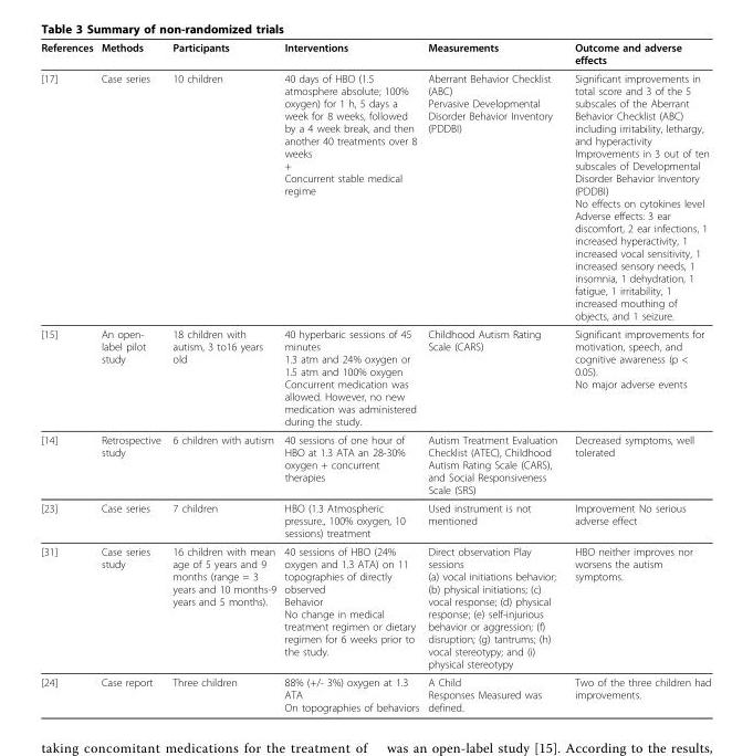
<table><thead><tr><td>References</td><td>Methods</td><td>Participants</td><td>Interventions</td><td>Measurements</td><td>Outcome and adverse effects</td></tr></thead><tbody><tr><td>[17]</td><td>Case series</td><td>10 children</td><td>40 days of HBO (1.5 atmosphere absolute; 100% oxygen) for 1 h, 5 days a week for 8 weeks, followed by a 4 week break, and then another 40 treatments over 8 weeks + Concurrent stable medical regime</td><td>Aberrant Behavior Checklist (ABC) Pervasive Developmental Disorder Behavior Inventory (PDDBI)</td><td>Significant improvements in total score and 3 of the 5 subscales of the Aberrant Behavior Checklist (ABC) including irritability, lethargy, and hyperactivity Improvements in 3 out of ten subscales of Developmental Disorder Behavior Inventory (PDDBI) No effects on cytokines level Adverse effects: 3 ear discomfort, 2 ear infections, 1 increased hyperactivity, 1 increased vocal sensitivity, 1 increased sensory needs, 1 insomnia, 1 dehydration, 1 fatigue, 1 irritability, 1 increased mouthing of objects, and 1 seizure.</td></tr><tr><td>[15]</td><td>An open- label pilot study</td><td>18 children with autism, 3 to16 years old</td><td>40 hyperbaric sessions of 45 minutes 1.3 atm and 24% oxygen or 1.5 atm and 100% oxygen Concurrent medication was allowed. However, no new medication was administered during the study.</td><td>Childhood Autism Rating Scale (CARS)</td><td>Significant improvements for motivation, speech, and cognitive awareness (p &lt; 0.05). No major adverse events</td></tr><tr><td>[14]</td><td>Retrospective study</td><td>6 children with autism</td><td>40 sessions of one hour of HBO at 1.3 ATA an 28-30% oxygen + concurrent therapies</td><td>Autism Treatment Evaluation Checklist (ATEC), Childhood Autism Rating Scale (CARS), and Social Responsiveness Scale (SRS)</td><td>Decreased symptoms, well tolerated</td></tr><tr><td>[23]</td><td>Case series</td><td>7 children</td><td>HBO (1.3 Atmospheric pressure., 100% oxygen, 10 sessions) treatment</td><td>Used instrument is not mentioned</td><td>Improvement No serious adverse effect</td></tr><tr><td>[31]</td><td>Case series study</td><td>16 children with mean age of 5 years and 9 months (range = 3 years and 10 months-9 years and 5 months).</td><td>40 sessions of HBO (24% oxygen and 1.3 ATA) on 11 topographies of directly observed Behavior No change in medical treatment regimen or dietary regimen for 6 weeks prior to the study.</td><td>Direct observation Play sessions (a) vocal initiations behavior; (b) physical initiations; (c) vocal response; (d) physical response; (e) self-injurious behavior or aggression; (f) disruption; (g) tantrums; (h) vocal stereotypy; and (i) physical stereotypy</td><td>HBO neither improves nor worsens the autism symptoms.</td></tr><tr><td>[24]</td><td>Case report</td><td>Three children</td><td>88% (+/- 3%) oxygen at 1.3 ATA On topographies of behaviors</td><td>A Child Responses Measured was defined.</td><td>Two of the three children had improvements.</td></tr></tbody></table>